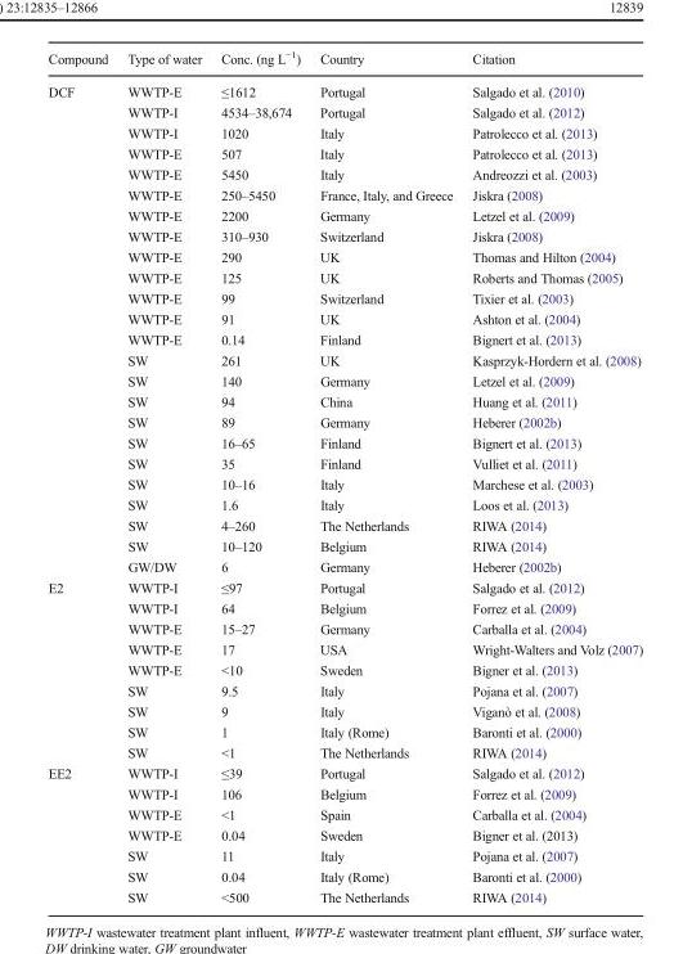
<table><thead><tr><td>Compound</td><td>Type of water</td><td>Conc. (ng L<sup>−1</sup>)</td><td>Country</td><td>Citation</td></tr></thead><tbody><tr><td rowspan="24">DCF</td><td>WWTP-E</td><td>≤1612</td><td>Portugal</td><td>Salgado et al. (2010)</td></tr><tr><td>WWTP-I</td><td>4534–38,674</td><td>Portugal</td><td>Salgado et al. (2012)</td></tr><tr><td>WWTP-I</td><td>1020</td><td>Italy</td><td>Patrolecco et al. (2013)</td></tr><tr><td>WWTP-E</td><td>507</td><td>Italy</td><td>Patrolecco et al. (2013)</td></tr><tr><td>WWTP-E</td><td>5450</td><td>Italy</td><td>Andreozzi et al. (2003)</td></tr><tr><td>WWTP-E</td><td>250–5450</td><td>France, Italy, and Greece</td><td>Jiskra (2008)</td></tr><tr><td>WWTP-E</td><td>2200</td><td>Germany</td><td>Letzel et al. (2009)</td></tr><tr><td>WWTP-E</td><td>310–930</td><td>Switzerland</td><td>Jiskra (2008)</td></tr><tr><td>WWTP-E</td><td>290</td><td>UK</td><td>Thomas and Hilton (2004)</td></tr><tr><td>WWTP-E</td><td>125</td><td>UK</td><td>Roberts and Thomas (2005)</td></tr><tr><td>WWTP-E</td><td>99</td><td>Switzerland</td><td>Tixier et al. (2003)</td></tr><tr><td>WWTP-E</td><td>91</td><td>UK</td><td>Ashton et al. (2004)</td></tr><tr><td>WWTP-E</td><td>0.14</td><td>Finland</td><td>Bignert et al. (2013)</td></tr><tr><td>SW</td><td>261</td><td>UK</td><td>Kasprzyk-Hordern et al. (2008)</td></tr><tr><td>SW</td><td>140</td><td>Germany</td><td>Letzel et al. (2009)</td></tr><tr><td>SW</td><td>94</td><td>China</td><td>Huang et al. (2011)</td></tr><tr><td>SW</td><td>89</td><td>Germany</td><td>Heberer (2002b)</td></tr><tr><td>SW</td><td>16–65</td><td>Finland</td><td>Bignert et al. (2013)</td></tr><tr><td>SW</td><td>35</td><td>Finland</td><td>Vulliet et al. (2011)</td></tr><tr><td>SW</td><td>10–16</td><td>Italy</td><td>Marchese et al. (2003)</td></tr><tr><td>SW</td><td>1.6</td><td>Italy</td><td>Loos et al. (2013)</td></tr><tr><td>SW</td><td>4–260</td><td>The Netherlands</td><td>RIWA (2014)</td></tr><tr><td>SW</td><td>10–120</td><td>Belgium</td><td>RIWA (2014)</td></tr><tr><td>GW/DW</td><td>6</td><td>Germany</td><td>Heberer (2002b)</td></tr><tr><td rowspan="9">E2</td><td>WWTP-I</td><td>≤97</td><td>Portugal</td><td>Salgado et al. (2012)</td></tr><tr><td>WWTP-I</td><td>64</td><td>Belgium</td><td>Forrez et al. (2009)</td></tr><tr><td>WWTP-E</td><td>15–27</td><td>Germany</td><td>Carballa et al. (2004)</td></tr><tr><td>WWTP-E</td><td>17</td><td>USA</td><td>Wright-Walters and Volz (2007)</td></tr><tr><td>WWTP-E</td><td>&lt;10</td><td>Sweden</td><td>Bigner et al. (2013)</td></tr><tr><td>SW</td><td>9.5</td><td>Italy</td><td>Pojana et al. (2007)</td></tr><tr><td>SW</td><td>9</td><td>Italy</td><td>Viganò et al. (2008)</td></tr><tr><td>SW</td><td>1</td><td>Italy (Rome)</td><td>Baronti et al. (2000)</td></tr><tr><td>SW</td><td>&lt;1</td><td>The Netherlands</td><td>RIWA (2014)</td></tr><tr><td rowspan="7">EE2</td><td>WWTP-I</td><td>≤39</td><td>Portugal</td><td>Salgado et al. (2012)</td></tr><tr><td>WWTP-I</td><td>106</td><td>Belgium</td><td>Forrez et al. (2009)</td></tr><tr><td>WWTP-E</td><td>&lt;1</td><td>Spain</td><td>Carballa et al. (2004)</td></tr><tr><td>WWTP-E</td><td>0.04</td><td>Sweden</td><td>Bigner et al. (2013)</td></tr><tr><td>SW</td><td>11</td><td>Italy</td><td>Pojana et al. (2007)</td></tr><tr><td>SW</td><td>0.04</td><td>Italy (Rome)</td><td>Baronti et al. (2000)</td></tr><tr><td>SW</td><td>&lt;500</td><td>The Netherlands</td><td>RIWA (2014)</td></tr></tbody></table>